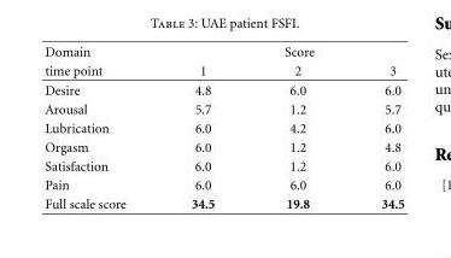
<table><thead><tr><td rowspan="2">Domain time point</td><td colspan="3">Score</td></tr><tr><td>1</td><td>2</td><td>3</td></tr></thead><tbody><tr><td>Desire</td><td>4.8</td><td>6.0</td><td>6.0</td></tr><tr><td>Arousal</td><td>5.7</td><td>1.2</td><td>5.7</td></tr><tr><td>Lubrication</td><td>6.0</td><td>4.2</td><td>6.0</td></tr><tr><td>Orgasm</td><td>6.0</td><td>1.2</td><td>4.8</td></tr><tr><td>Satisfaction</td><td>6.0</td><td>1.2</td><td>6.0</td></tr><tr><td>Pain</td><td>6.0</td><td>6.0</td><td>6.0</td></tr><tr><td>Full scale score</td><td>34.5</td><td>19.8</td><td>34.5</td></tr></tbody></table>